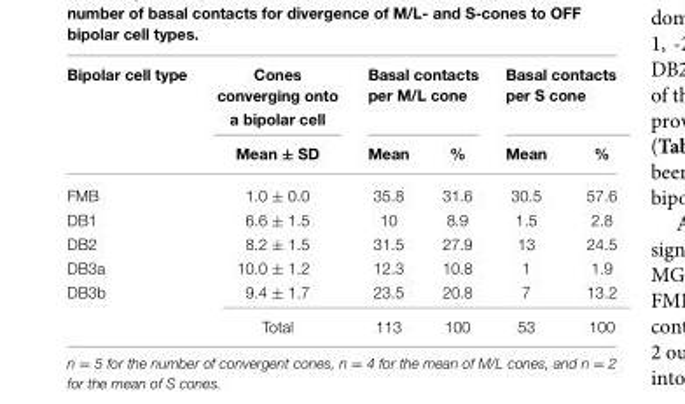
<table><thead><tr><td rowspan="2">Bipolar cell type</td><td rowspan="2">Cones converging onto a bipolar cell Mean ± SD</td><td colspan="2">Basal contacts per M/L cone</td><td colspan="2">Basal contacts per S cone</td></tr><tr><td>Mean</td><td>%</td><td>Mean</td><td>%</td></tr></thead><tbody><tr><td>FMB</td><td>1.0 ± 0.0</td><td>35.8</td><td>31.6</td><td>30.5</td><td>57.6</td></tr><tr><td>DB1</td><td>6.6 ± 1.5</td><td>10</td><td>8.9</td><td>1.5</td><td>2.8</td></tr><tr><td>DB2</td><td>8.2 ± 1.5</td><td>31.5</td><td>27.9</td><td>13</td><td>24.5</td></tr><tr><td>DB3a</td><td>10.0 ± 1.2</td><td>12.3</td><td>10.8</td><td>1</td><td>1.9</td></tr><tr><td rowspan="2">DB3b</td><td>9.4 ± 1.7</td><td>23.5</td><td>20.8</td><td>7</td><td>13.2</td></tr><tr><td>Total</td><td>113</td><td>100</td><td>53</td><td>100</td></tr></tbody></table>